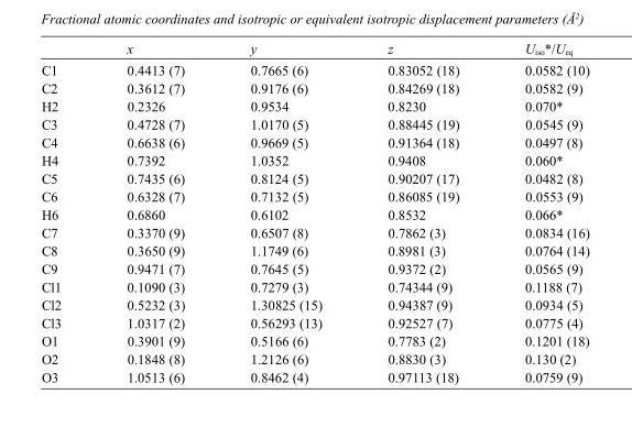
<table><thead><tr><td></td><td>x</td><td>y</td><td>z</td><td>U<sub>iso</sub>*/U<sub>eq</sub></td></tr></thead><tbody><tr><td>C1</td><td>0.4413 (7)</td><td>0.7665 (6)</td><td>0.83052 (18)</td><td>0.0582 (10)</td></tr><tr><td>C2</td><td>0.3612 (7)</td><td>0.9176 (6)</td><td>0.84269 (18)</td><td>0.0582 (9)</td></tr><tr><td>H2</td><td>0.2326</td><td>0.9534</td><td>0.8230</td><td>0.070*</td></tr><tr><td>C3</td><td>0.4728 (7)</td><td>1.0170 (5)</td><td>0.88445 (19)</td><td>0.0545 (9)</td></tr><tr><td>C4</td><td>0.6638 (6)</td><td>0.9669 (5)</td><td>0.91364 (18)</td><td>0.0497 (8)</td></tr><tr><td>H4</td><td>0.7392</td><td>1.0352</td><td>0.9408</td><td>0.060*</td></tr><tr><td>C5</td><td>0.7435 (6)</td><td>0.8124 (5)</td><td>0.90207 (17)</td><td>0.0482 (8)</td></tr><tr><td>C6</td><td>0.6328 (7)</td><td>0.7132 (5)</td><td>0.86085 (19)</td><td>0.0553 (9)</td></tr><tr><td>H6</td><td>0.6860</td><td>0.6102</td><td>0.8532</td><td>0.066*</td></tr><tr><td>C7</td><td>0.3370 (9)</td><td>0.6507 (8)</td><td>0.7862 (3)</td><td>0.0834 (16)</td></tr><tr><td>C8</td><td>0.3650 (9)</td><td>1.1749 (6)</td><td>0.8981 (3)</td><td>0.0764 (14)</td></tr><tr><td>C9</td><td>0.9471 (7)</td><td>0.7645 (5)</td><td>0.9372 (2)</td><td>0.0565 (9)</td></tr><tr><td>Cl1</td><td>0.1090 (3)</td><td>0.7279 (3)</td><td>0.74344 (9)</td><td>0.1188 (7)</td></tr><tr><td>Cl2</td><td>0.5232 (3)</td><td>1.30825 (15)</td><td>0.94387 (9)</td><td>0.0934 (5)</td></tr><tr><td>Cl3</td><td>1.0317 (2)</td><td>0.56293 (13)</td><td>0.92527 (7)</td><td>0.0775 (4)</td></tr><tr><td>O1</td><td>0.3901 (9)</td><td>0.5166 (6)</td><td>0.7783 (2)</td><td>0.1201 (18)</td></tr><tr><td>O2</td><td>0.1848 (8)</td><td>1.2126 (6)</td><td>0.8830 (3)</td><td>0.130 (2)</td></tr><tr><td>O3</td><td>1.0513 (6)</td><td>0.8462 (4)</td><td>0.97113 (18)</td><td>0.0759 (9)</td></tr></tbody></table>